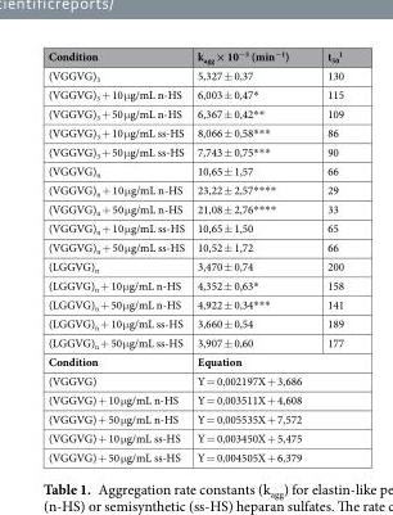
<table><thead><tr><td>Condition</td><td>k<sub>agg</sub> × 10<sup>−3</sup> (min<sup>−1</sup>)</td><td>t<sub>50</sub> <sup>1</sup></td></tr></thead><tbody><tr><td>(VGGVG)<sub>3</sub></td><td>5,327 ± 0,37</td><td>130</td></tr><tr><td>(VGGVG)<sub>3</sub> + 10 μg/mL n-HS</td><td>6,003 ± 0,47*</td><td>115</td></tr><tr><td>(VGGVG)<sub>3</sub> + 50 μg/mL n-HS</td><td>6,367 ± 0,42**</td><td>109</td></tr><tr><td>(VGGVG)<sub>3</sub> + 10 μg/mL ss-HS</td><td>8,066 ± 0,58***</td><td>86</td></tr><tr><td>(VGGVG)<sub>3</sub> + 50 μg/mL ss-HS</td><td>7,743 ± 0,75***</td><td>90</td></tr><tr><td>(VGGVG)<sub>n</sub></td><td>10,65 ± 1,57</td><td>66</td></tr><tr><td>(VGGVG)<sub>n</sub> + 10 μg/mL n-HS</td><td>23,22 ± 2,57****</td><td>29</td></tr><tr><td>(VGGVG)<sub>n</sub> + 50 μg/mL n-HS</td><td>21,08 ± 2,76****</td><td>33</td></tr><tr><td>(VGGVG)<sub>n</sub> + 10 μg/mL ss-HS</td><td>10,65 ± 1,50</td><td>65</td></tr><tr><td>(VGGVG)<sub>n</sub> + 50 μg/mL ss-HS</td><td>10,52 ± 1,72</td><td>66</td></tr><tr><td>(LGGVG)<sub>n</sub></td><td>3,470 ± 0,74</td><td>200</td></tr><tr><td>(LGGVG)<sub>n</sub> + 10 μg/mL n-HS</td><td>4,352 ± 0,63*</td><td>158</td></tr><tr><td>(LGGVG)<sub>n</sub> + 50 μg/mL n-HS</td><td>4,922 ± 0,34***</td><td>141</td></tr><tr><td>(LGGVG)<sub>n</sub> + 10 μg/mL ss-HS</td><td>3,660 ± 0,54</td><td>189</td></tr><tr><td>(LGGVG)<sub>n</sub> + 50 μg/mL ss-HS</td><td>3,907 ± 0,60</td><td>177</td></tr><tr><td>Condition</td><td colspan="2">Equation</td></tr><tr><td>(VGGVG)</td><td colspan="2">Y = 0,002197X + 3,686</td></tr><tr><td>(VGGVG) + 10 μg/mL n-HS</td><td colspan="2">Y = 0,003511X + 4,608</td></tr><tr><td>(VGGVG) + 50 μg/mL n-HS</td><td colspan="2">Y = 0,005535X + 7,572</td></tr><tr><td>(VGGVG) + 10 μg/mL ss-HS</td><td colspan="2">Y = 0,003450X + 5,475</td></tr><tr><td>(VGGVG) + 50 μg/mL ss-HS</td><td colspan="2">Y = 0,004505X + 6,379</td></tr></tbody></table>